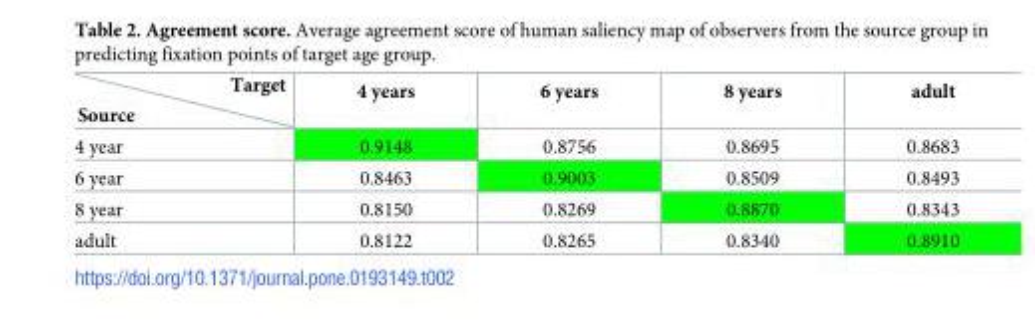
<table><thead><tr><td>Source Target</td><td>4 years</td><td>6 years</td><td>8 years</td><td>adult</td></tr></thead><tbody><tr><td>4 year</td><td>0.9148</td><td>0.8756</td><td>0.8695</td><td>0.8683</td></tr><tr><td>6 year</td><td>0.8463</td><td>0.9003</td><td>0.8509</td><td>0.8493</td></tr><tr><td>8 year</td><td>0.8150</td><td>0.8269</td><td>0.8870</td><td>0.8343</td></tr><tr><td>adult</td><td>0.8122</td><td>0.8265</td><td>0.8340</td><td>0.8910</td></tr></tbody></table>